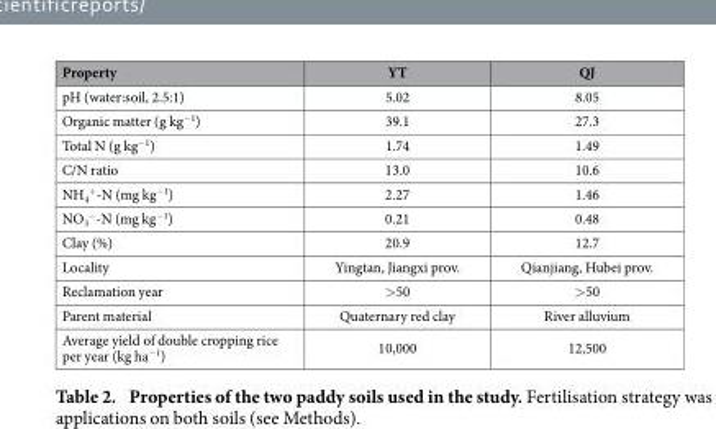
<table><thead><tr><td>Property</td><td>YT</td><td>QJ</td></tr></thead><tbody><tr><td>pH (water:soil, 2.5:1)</td><td>5.02</td><td>8.05</td></tr><tr><td>Organic matter (g kg<sup>−1</sup>)</td><td>39.1</td><td>27.3</td></tr><tr><td>Total N (g kg<sup>−1</sup>)</td><td>1.74</td><td>1.49</td></tr><tr><td>C/N ratio</td><td>13.0</td><td>10.6</td></tr><tr><td>NH<sub>4</sub> <sup>+</sup>-N (mg kg<sup>−1</sup>)</td><td>2.27</td><td>1.46</td></tr><tr><td>NO<sub>3</sub> <sup>−</sup>-N (mg kg<sup>−1</sup>)</td><td>0.21</td><td>0.48</td></tr><tr><td>Clay (%)</td><td>20.9</td><td>12.7</td></tr><tr><td>Locality</td><td>Yingtan, Jiangxi prov.</td><td>Qianjiang, Hubei prov.</td></tr><tr><td>Reclamation year</td><td>&gt; 50</td><td>&gt; 50</td></tr><tr><td>Parent material</td><td>Quaternary red clay</td><td>River alluvium</td></tr><tr><td>Average yield of double cropping rice per year (kg ha<sup>−1</sup>)</td><td>10,000</td><td>12,500</td></tr></tbody></table>